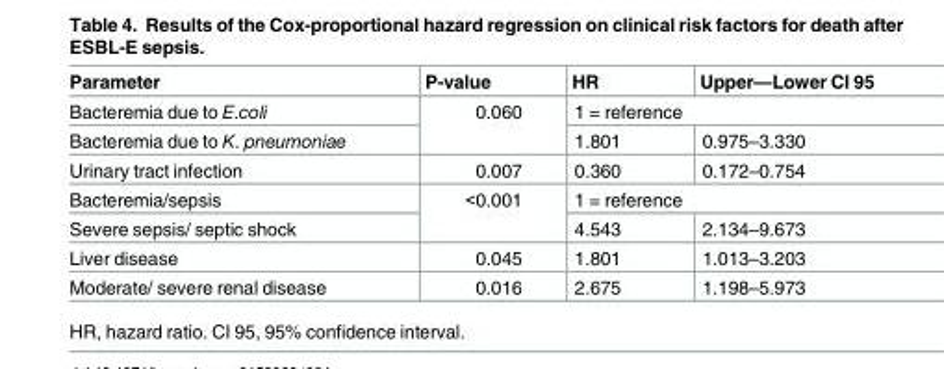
<table><thead><tr><td>Parameter</td><td>P-value</td><td>HR</td><td>Upper—Lower CI 95</td></tr></thead><tbody><tr><td>Bacteremia due to E.coli</td><td rowspan="2">0.060</td><td colspan="2">1 = reference</td></tr><tr><td>Bacteremia due to K. pneumoniae</td><td>1.801</td><td>0.975–3.330</td></tr><tr><td>Urinary tract infection</td><td>0.007</td><td>0.360</td><td>0.172–0.754</td></tr><tr><td>Bacteremia/sepsis</td><td rowspan="2">&lt;0.001</td><td colspan="2">1 = reference</td></tr><tr><td>Severe sepsis/ septic shock</td><td>4.543</td><td>2.134–9.673</td></tr><tr><td>Liver disease</td><td>0.045</td><td>1.801</td><td>1.013–3.203</td></tr><tr><td>Moderate/ severe renal disease</td><td>0.016</td><td>2.675</td><td>1.198–5.973</td></tr></tbody></table>